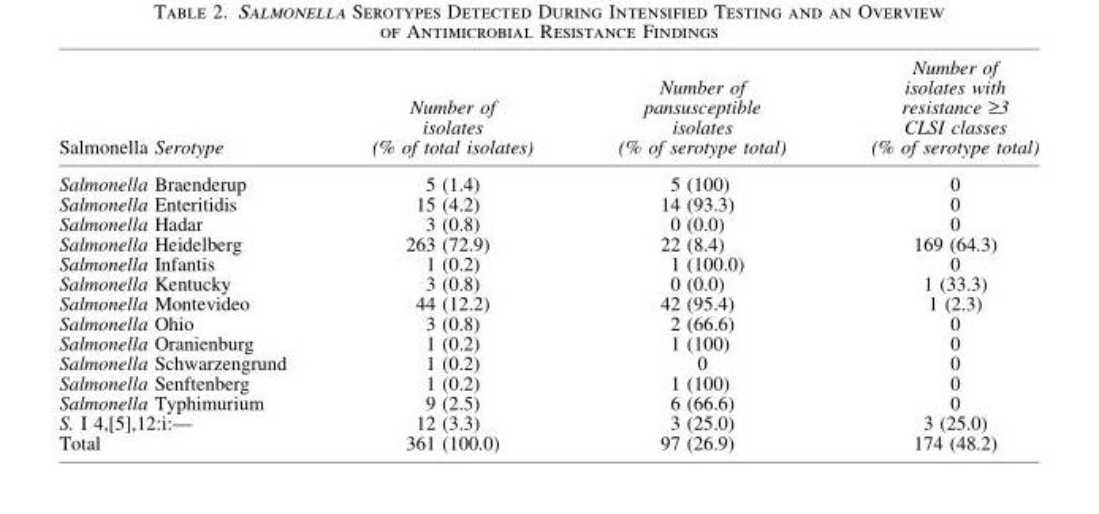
<table><thead><tr><td>Salmonella Serotype</td><td>Number of isolates (% of total isolates)</td><td>Number of pansusceptible isolates (% of serotype total)</td><td>Number of isolates with resistance ‡3 CLSI classes (% of serotype total)</td></tr></thead><tbody><tr><td>Salmonella Braenderup</td><td>5 (1.4)</td><td>5 (100)</td><td>0</td></tr><tr><td>Salmonella Enteritidis</td><td>15 (4.2)</td><td>14 (93.3)</td><td>0</td></tr><tr><td>Salmonella Hadar</td><td>3 (0.8)</td><td>0 (0.0)</td><td>0</td></tr><tr><td>Salmonella Heidelberg</td><td>263 (72.9)</td><td>22 (8.4)</td><td>169 (64.3)</td></tr><tr><td>Salmonella Infantis</td><td>1 (0.2)</td><td>1 (100.0)</td><td>0</td></tr><tr><td>Salmonella Kentucky</td><td>3 (0.8)</td><td>0 (0.0)</td><td>1 (33.3)</td></tr><tr><td>Salmonella Montevideo</td><td>44 (12.2)</td><td>42 (95.4)</td><td>1 (2.3)</td></tr><tr><td>Salmonella Ohio</td><td>3 (0.8)</td><td>2 (66.6)</td><td>0</td></tr><tr><td>Salmonella Oranienburg</td><td>1 (0.2)</td><td>1 (100)</td><td>0</td></tr><tr><td>Salmonella Schwarzengrund</td><td>1 (0.2)</td><td>0</td><td>0</td></tr><tr><td>Salmonella Senftenberg</td><td>1 (0.2)</td><td>1 (100)</td><td>0</td></tr><tr><td>Salmonella Typhimurium</td><td>9 (2.5)</td><td>6 (66.6)</td><td>0</td></tr><tr><td>S. I 4,[5],12:i:—</td><td>12 (3.3)</td><td>3 (25.0)</td><td>3 (25.0)</td></tr><tr><td>Total</td><td>361 (100.0)</td><td>97 (26.9)</td><td>174 (48.2)</td></tr></tbody></table>